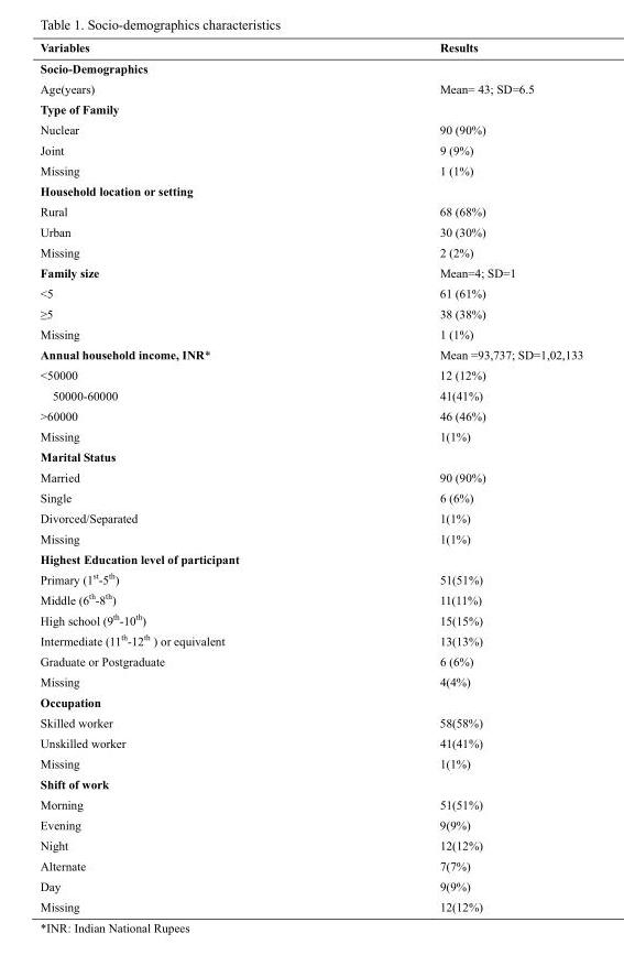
<table><thead><tr><td>Variables</td><td>Results</td></tr></thead><tbody><tr><td colspan="2">Socio-Demographics</td></tr><tr><td>Age(years)</td><td>Mean= 43; SD=6.5</td></tr><tr><td colspan="2">Type of Family</td></tr><tr><td>Nuclear</td><td>90 (90%)</td></tr><tr><td>Joint</td><td>9 (9%)</td></tr><tr><td>Missing</td><td>1 (1%)</td></tr><tr><td colspan="2">Household location or setting</td></tr><tr><td>Rural</td><td>68 (68%)</td></tr><tr><td>Urban</td><td>30 (30%)</td></tr><tr><td>Missing</td><td>2 (2%)</td></tr><tr><td>Family size</td><td>Mean=4; SD=1</td></tr><tr><td>&lt;5</td><td>61 (61%)</td></tr><tr><td>≥5</td><td>38 (38%)</td></tr><tr><td>Missing</td><td>1 (1%)</td></tr><tr><td>Annual household income, INR*</td><td>Mean =93,737; SD=1,02,133</td></tr><tr><td>&lt;50000</td><td>12 (12%)</td></tr><tr><td>50000-60000</td><td>41(41%)</td></tr><tr><td>&gt;60000</td><td>46 (46%)</td></tr><tr><td>Missing</td><td>1(1%)</td></tr><tr><td colspan="2">Marital Status</td></tr><tr><td>Married</td><td>90 (90%)</td></tr><tr><td>Single</td><td>6 (6%)</td></tr><tr><td>Divorced/Separated</td><td>1(1%)</td></tr><tr><td>Missing</td><td>1(1%)</td></tr><tr><td colspan="2">Highest Education level of participant</td></tr><tr><td>Primary (1<sup>st</sup>-5<sup>th</sup>)</td><td>51(51%)</td></tr><tr><td>Middle (6<sup>th</sup>-8<sup>th</sup>)</td><td>11(11%)</td></tr><tr><td>High school (9<sup>th</sup>-10<sup>th</sup>)</td><td>15(15%)</td></tr><tr><td>Intermediate (11<sup>th</sup>-12<sup>th</sup> ) or equivalent</td><td>13(13%)</td></tr><tr><td>Graduate or Postgraduate</td><td>6 (6%)</td></tr><tr><td>Missing</td><td>4(4%)</td></tr><tr><td colspan="2">Occupation</td></tr><tr><td>Skilled worker</td><td>58(58%)</td></tr><tr><td>Unskilled worker</td><td>41(41%)</td></tr><tr><td>Missing</td><td>1(1%)</td></tr><tr><td colspan="2">Shift of work</td></tr><tr><td>Morning</td><td>51(51%)</td></tr><tr><td>Evening</td><td>9(9%)</td></tr><tr><td>Night</td><td>12(12%)</td></tr><tr><td>Alternate</td><td>7(7%)</td></tr><tr><td>Day</td><td>9(9%)</td></tr><tr><td>Missing</td><td>12(12%)</td></tr></tbody></table>